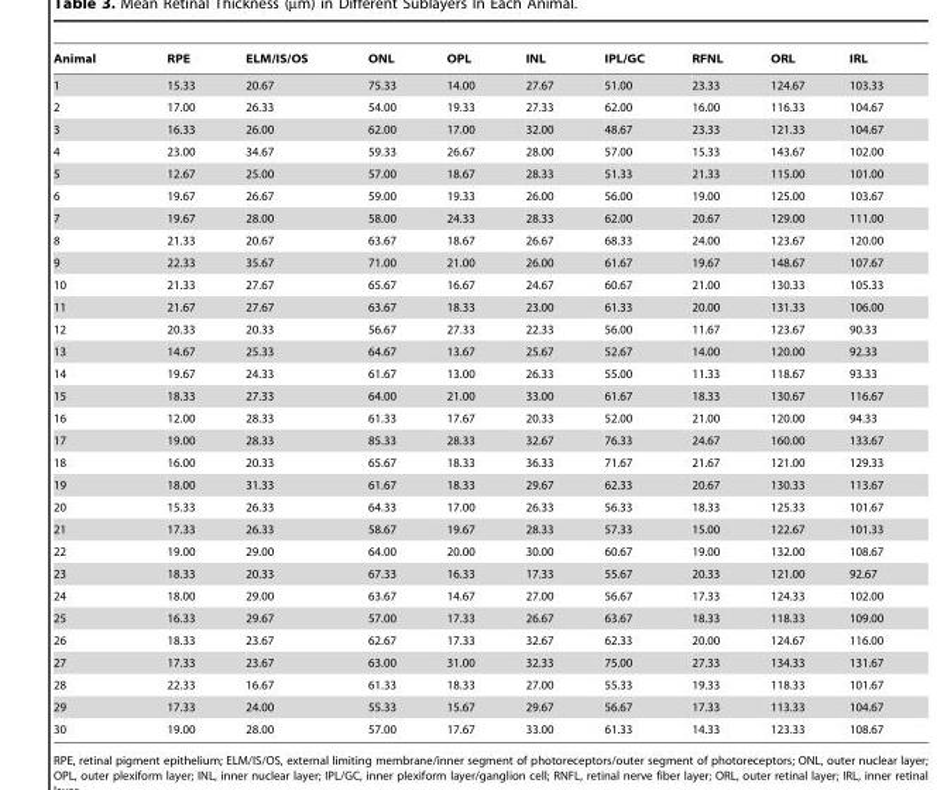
<table><thead><tr><td>Animal</td><td>RPE</td><td>ELM/IS/OS</td><td>ONL</td><td>OPL</td><td>INL</td><td>IPL/GC</td><td>RFNL</td><td>ORL</td><td>IRL</td></tr></thead><tbody><tr><td>1</td><td>15.33</td><td>20.67</td><td>75.33</td><td>14.00</td><td>27.67</td><td>51.00</td><td>23.33</td><td>124.67</td><td>103.33</td></tr><tr><td>2</td><td>17.00</td><td>26.33</td><td>54.00</td><td>19.33</td><td>27.33</td><td>62.00</td><td>16.00</td><td>116.33</td><td>104.67</td></tr><tr><td>3</td><td>16.33</td><td>26.00</td><td>62.00</td><td>17.00</td><td>32.00</td><td>48.67</td><td>23.33</td><td>121.33</td><td>104.67</td></tr><tr><td>4</td><td>23.00</td><td>34.67</td><td>59.33</td><td>26.67</td><td>28.00</td><td>57.00</td><td>15.33</td><td>143.67</td><td>102.00</td></tr><tr><td>5</td><td>12.67</td><td>25.00</td><td>57.00</td><td>18.67</td><td>28.33</td><td>51.33</td><td>21.33</td><td>115.00</td><td>101.00</td></tr><tr><td>6</td><td>19.67</td><td>26.67</td><td>59.00</td><td>19.33</td><td>26.00</td><td>56.00</td><td>19.00</td><td>125.00</td><td>103.67</td></tr><tr><td>7</td><td>19.67</td><td>28.00</td><td>58.00</td><td>24.33</td><td>28.33</td><td>62.00</td><td>20.67</td><td>129.00</td><td>111.00</td></tr><tr><td>8</td><td>21.33</td><td>20.67</td><td>63.67</td><td>18.67</td><td>26.67</td><td>68.33</td><td>24.00</td><td>123.67</td><td>120.00</td></tr><tr><td>9</td><td>22.33</td><td>35.67</td><td>71.00</td><td>21.00</td><td>26.00</td><td>61.67</td><td>19.67</td><td>148.67</td><td>107.67</td></tr><tr><td>10</td><td>21.33</td><td>27.67</td><td>65.67</td><td>16.67</td><td>24.67</td><td>60.67</td><td>21.00</td><td>130.33</td><td>105.33</td></tr><tr><td>11</td><td>21.67</td><td>27.67</td><td>63.67</td><td>18.33</td><td>23.00</td><td>61.33</td><td>20.00</td><td>131.33</td><td>106.00</td></tr><tr><td>12</td><td>20.33</td><td>20.33</td><td>56.67</td><td>27.33</td><td>22.33</td><td>56.00</td><td>11.67</td><td>123.67</td><td>90.33</td></tr><tr><td>13</td><td>14.67</td><td>25.33</td><td>64.67</td><td>13.67</td><td>25.67</td><td>52.67</td><td>14.00</td><td>120.00</td><td>92.33</td></tr><tr><td>14</td><td>19.67</td><td>24.33</td><td>61.67</td><td>13.00</td><td>26.33</td><td>55.00</td><td>11.33</td><td>118.67</td><td>93.33</td></tr><tr><td>15</td><td>18.33</td><td>27.33</td><td>64.00</td><td>21.00</td><td>33.00</td><td>61.67</td><td>18.33</td><td>130.67</td><td>116.67</td></tr><tr><td>16</td><td>12.00</td><td>28.33</td><td>61.33</td><td>17.67</td><td>20.33</td><td>52.00</td><td>21.00</td><td>120.00</td><td>94.33</td></tr><tr><td>17</td><td>19.00</td><td>28.33</td><td>85.33</td><td>28.33</td><td>32.67</td><td>76.33</td><td>24.67</td><td>160.00</td><td>133.67</td></tr><tr><td>18</td><td>16.00</td><td>20.33</td><td>65.67</td><td>18.33</td><td>36.33</td><td>71.67</td><td>21.67</td><td>121.00</td><td>129.33</td></tr><tr><td>19</td><td>18.00</td><td>31.33</td><td>61.67</td><td>18.33</td><td>29.67</td><td>62.33</td><td>20.67</td><td>130.33</td><td>113.67</td></tr><tr><td>20</td><td>15.33</td><td>26.33</td><td>64.33</td><td>17.00</td><td>26.33</td><td>56.33</td><td>18.33</td><td>125.33</td><td>101.67</td></tr><tr><td>21</td><td>17.33</td><td>26.33</td><td>58.67</td><td>19.67</td><td>28.33</td><td>57.33</td><td>15.00</td><td>122.67</td><td>101.33</td></tr><tr><td>22</td><td>19.00</td><td>29.00</td><td>64.00</td><td>20.00</td><td>30.00</td><td>60.67</td><td>19.00</td><td>132.00</td><td>108.67</td></tr><tr><td>23</td><td>18.33</td><td>20.33</td><td>67.33</td><td>16.33</td><td>17.33</td><td>55.67</td><td>20.33</td><td>121.00</td><td>92.67</td></tr><tr><td>24</td><td>18.00</td><td>29.00</td><td>63.67</td><td>14.67</td><td>27.00</td><td>56.67</td><td>17.33</td><td>124.33</td><td>102.00</td></tr><tr><td>25</td><td>16.33</td><td>29.67</td><td>57.00</td><td>17.33</td><td>26.67</td><td>63.67</td><td>18.33</td><td>118.33</td><td>109.00</td></tr><tr><td>26</td><td>18.33</td><td>23.67</td><td>62.67</td><td>17.33</td><td>32.67</td><td>62.33</td><td>20.00</td><td>124.67</td><td>116.00</td></tr><tr><td>27</td><td>17.33</td><td>23.67</td><td>63.00</td><td>31.00</td><td>32.33</td><td>75.00</td><td>27.33</td><td>134.33</td><td>131.67</td></tr><tr><td>28</td><td>22.33</td><td>16.67</td><td>61.33</td><td>18.33</td><td>27.00</td><td>55.33</td><td>19.33</td><td>118.33</td><td>101.67</td></tr><tr><td>29</td><td>17.33</td><td>24.00</td><td>55.33</td><td>15.67</td><td>29.67</td><td>56.67</td><td>17.33</td><td>113.33</td><td>104.67</td></tr><tr><td>30</td><td>19.00</td><td>28.00</td><td>57.00</td><td>17.67</td><td>33.00</td><td>61.33</td><td>14.33</td><td>123.33</td><td>108.67</td></tr></tbody></table>